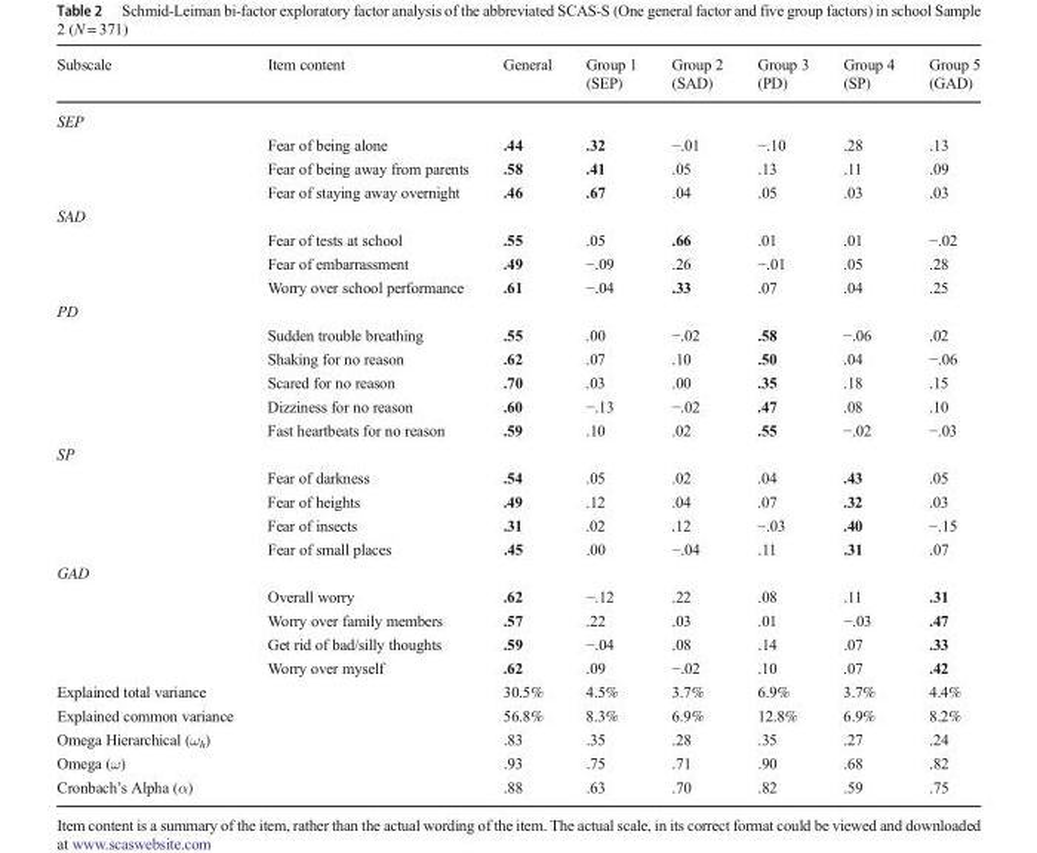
<table><thead><tr><td>Subscale</td><td>Item content</td><td>General</td><td>Group 1 (SEP)</td><td>Group 2 (SAD)</td><td>Group 3 (PD)</td><td>Group 4 (SP)</td><td>Group 5 (GAD)</td></tr></thead><tbody><tr><td colspan="8">SEP</td></tr><tr><td></td><td>Fear of being alone</td><td>.44</td><td>.32</td><td>−.01</td><td>−.10</td><td>.28</td><td>.13</td></tr><tr><td></td><td>Fear of being away from parents</td><td>.58</td><td>.41</td><td>.05</td><td>.13</td><td>.11</td><td>.09</td></tr><tr><td></td><td>Fear of staying away overnight</td><td>.46</td><td>.67</td><td>.04</td><td>.05</td><td>.03</td><td>.03</td></tr><tr><td colspan="8">SAD</td></tr><tr><td></td><td>Fear of tests at school</td><td>.55</td><td>.05</td><td>.66</td><td>.01</td><td>.01</td><td>−.02</td></tr><tr><td></td><td>Fear of embarrassment</td><td>.49</td><td>−.09</td><td>.26</td><td>−.01</td><td>.05</td><td>.28</td></tr><tr><td></td><td>Worry over school performance</td><td>.61</td><td>−.04</td><td>.33</td><td>.07</td><td>.04</td><td>.25</td></tr><tr><td colspan="8">PD</td></tr><tr><td></td><td>Sudden trouble breathing</td><td>.55</td><td>.00</td><td>−.02</td><td>.58</td><td>−.06</td><td>.02</td></tr><tr><td></td><td>Shaking for no reason</td><td>.62</td><td>.07</td><td>.10</td><td>.50</td><td>.04</td><td>−.06</td></tr><tr><td></td><td>Scared for no reason</td><td>.70</td><td>.03</td><td>.00</td><td>.35</td><td>.18</td><td>.15</td></tr><tr><td></td><td>Dizziness for no reason</td><td>.60</td><td>−.13</td><td>−.02</td><td>.47</td><td>.08</td><td>.10</td></tr><tr><td></td><td>Fast heartbeats for no reason</td><td>.59</td><td>.10</td><td>.02</td><td>.55</td><td>−.02</td><td>−.03</td></tr><tr><td colspan="8">SP</td></tr><tr><td></td><td>Fear of darkness</td><td>.54</td><td>.05</td><td>.02</td><td>.04</td><td>.43</td><td>.05</td></tr><tr><td></td><td>Fear of heights</td><td>.49</td><td>.12</td><td>.04</td><td>.07</td><td>.32</td><td>.03</td></tr><tr><td></td><td>Fear of insects</td><td>.31</td><td>.02</td><td>.12</td><td>−.03</td><td>.40</td><td>−.15</td></tr><tr><td></td><td>Fear of small places</td><td>.45</td><td>.00</td><td>−.04</td><td>.11</td><td>.31</td><td>.07</td></tr><tr><td colspan="8">GAD</td></tr><tr><td></td><td>Overall worry</td><td>.62</td><td>−.12</td><td>.22</td><td>.08</td><td>.11</td><td>.31</td></tr><tr><td></td><td>Worry over family members</td><td>.57</td><td>.22</td><td>.03</td><td>.01</td><td>−.03</td><td>.47</td></tr><tr><td></td><td>Get rid of bad/silly thoughts</td><td>.59</td><td>−.04</td><td>.08</td><td>.14</td><td>.07</td><td>.33</td></tr><tr><td></td><td>Worry over myself</td><td>.62</td><td>.09</td><td>−.02</td><td>.10</td><td>.07</td><td>.42</td></tr><tr><td>Explained total variance</td><td></td><td>30.5%</td><td>4.5%</td><td>3.7%</td><td>6.9%</td><td>3.7%</td><td>4.4%</td></tr><tr><td>Explained common variance</td><td></td><td>56.8%</td><td>8.3%</td><td>6.9%</td><td>12.8%</td><td>6.9%</td><td>8.2%</td></tr><tr><td>Omega Hierarchical (ω<sub>h</sub>)</td><td></td><td>.83</td><td>.35</td><td>.28</td><td>.35</td><td>.27</td><td>.24</td></tr><tr><td>Omega (ω)</td><td></td><td>.93</td><td>.75</td><td>.71</td><td>.90</td><td>.68</td><td>.82</td></tr><tr><td>Cronbach’s Alpha (α)</td><td></td><td>.88</td><td>.63</td><td>.70</td><td>.82</td><td>.59</td><td>.75</td></tr></tbody></table>